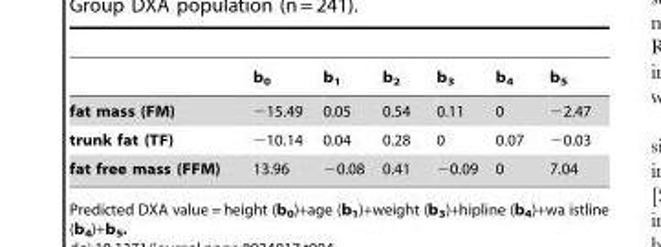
<table><thead><tr><td></td><td>b<sub>0</sub></td><td>b<sub>1</sub></td><td>b<sub>2</sub></td><td>b<sub>3</sub></td><td>b<sub>4</sub></td><td>b<sub>5</sub></td></tr></thead><tbody><tr><td>fat mass (FM)</td><td>−15.49</td><td>0.05</td><td>0.54</td><td>0.11</td><td>0</td><td>−2.47</td></tr><tr><td>trunk fat (TF)</td><td>−10.14</td><td>0.04</td><td>0.28</td><td>0</td><td>0.07</td><td>−0.03</td></tr><tr><td>fat free mass (FFM)</td><td>13.96</td><td>−0.08</td><td>0.41</td><td>−0.09</td><td>0</td><td>7.04</td></tr></tbody></table>